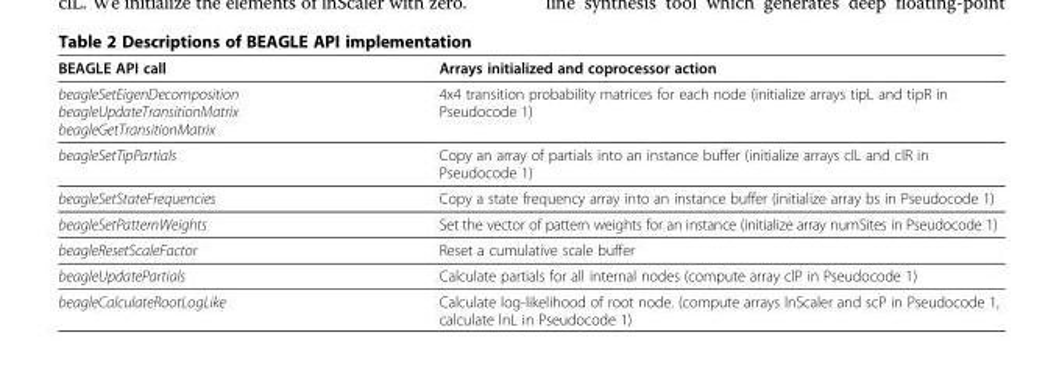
<table><thead><tr><td>BEAGLE API call</td><td>Arrays initialized and coprocessor action</td></tr></thead><tbody><tr><td>beagleSetEigenDecomposition beagleUpdateTransitionMatrix beagleGetTransitionMatrix</td><td>4x4 transition probability matrices for each node (initialize arrays tipL and tipR in Pseudocode 1)</td></tr><tr><td>beagleSetTipPartials</td><td>Copy an array of partials into an instance buffer (initialize arrays clL and clR in Pseudocode 1)</td></tr><tr><td>beagleSetStateFrequencies</td><td>Copy a state frequency array into an instance buffer (initialize array bs in Pseudocode 1)</td></tr><tr><td>beagleSetPatternWeights</td><td>Set the vector of pattern weights for an instance (initialize array numSites in Pseudocode 1)</td></tr><tr><td>beagleResetScaleFactor</td><td>Reset a cumulative scale buffer</td></tr><tr><td>beagleUpdatePartials</td><td>Calculate partials for all internal nodes (compute array clP in Pseudocode 1)</td></tr><tr><td>beagleCalculateRootLogLike</td><td>Calculate log-likelihood of root node. (compute arrays lnScaler and scP in Pseudocode 1, calculate lnL in Pseudocode 1)</td></tr></tbody></table>